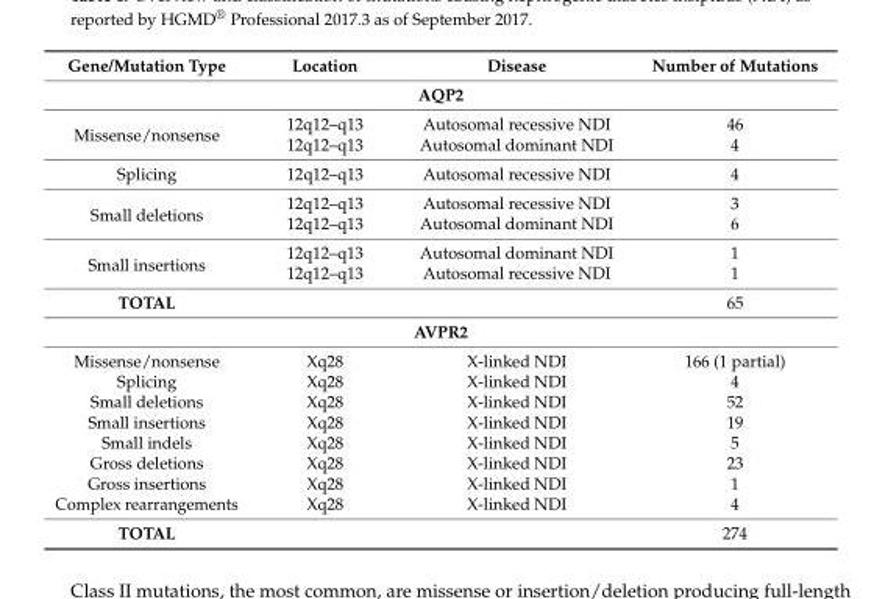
<table><thead><tr><td>Gene/Mutation Type</td><td>Location</td><td>Disease</td><td>Number of Mutations</td></tr></thead><tbody><tr><td colspan="4">AQP2</td></tr><tr><td rowspan="2">Missense/nonsense</td><td>12q12–q13</td><td>Autosomal recessive NDI</td><td>46</td></tr><tr><td>12q12–q13</td><td>Autosomal dominant NDI</td><td>4</td></tr><tr><td>Splicing</td><td>12q12–q13</td><td>Autosomal recessive NDI</td><td>4</td></tr><tr><td rowspan="2">Small deletions</td><td>12q12–q13</td><td>Autosomal recessive NDI</td><td>3</td></tr><tr><td>12q12–q13</td><td>Autosomal dominant NDI</td><td>6</td></tr><tr><td rowspan="2">Small insertions</td><td>12q12–q13</td><td>Autosomal dominant NDI</td><td>1</td></tr><tr><td>12q12–q13</td><td>Autosomal recessive NDI</td><td>1</td></tr><tr><td>TOTAL</td><td colspan="2"></td><td>65</td></tr><tr><td colspan="4">AVPR2</td></tr><tr><td>Missense/nonsense</td><td>Xq28</td><td>X-linked NDI</td><td>166 (1 partial)</td></tr><tr><td>Splicing</td><td>Xq28</td><td>X-linked NDI</td><td>4</td></tr><tr><td>Small deletions</td><td>Xq28</td><td>X-linked NDI</td><td>52</td></tr><tr><td>Small insertions</td><td>Xq28</td><td>X-linked NDI</td><td>19</td></tr><tr><td>Small indels</td><td>Xq28</td><td>X-linked NDI</td><td>5</td></tr><tr><td>Gross deletions</td><td>Xq28</td><td>X-linked NDI</td><td>23</td></tr><tr><td>Gross insertions</td><td>Xq28</td><td>X-linked NDI</td><td>1</td></tr><tr><td>Complex rearrangements</td><td>Xq28</td><td>X-linked NDI</td><td>4</td></tr><tr><td>TOTAL</td><td colspan="2"></td><td>274</td></tr></tbody></table>